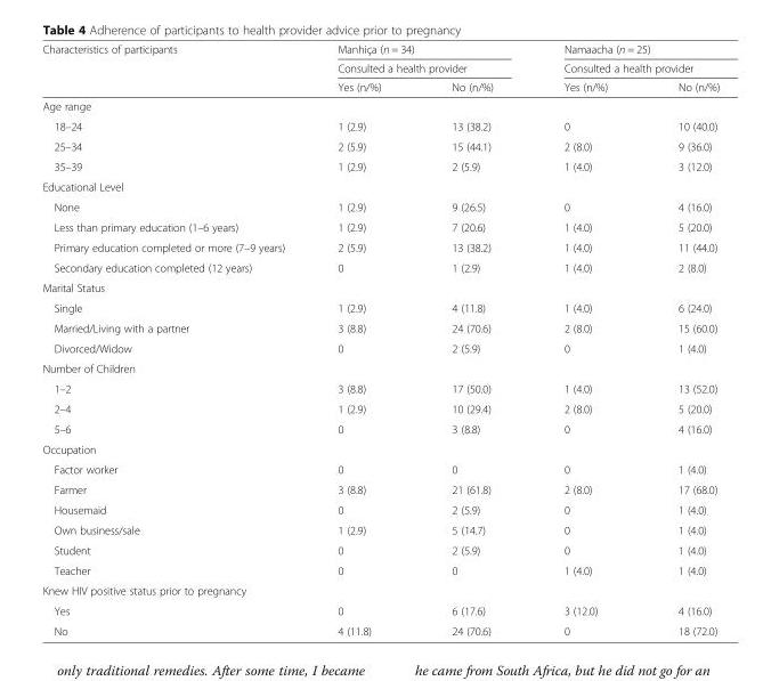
<table><thead><tr><td rowspan="3">Characteristics of participants</td><td rowspan="2" colspan="2">Manhiça (n = 34) Consulted a health provider</td><td rowspan="2" colspan="2">Namaacha (n = 25) Consulted a health provider</td></tr><tr></tr><tr><td>Yes (n/%)</td><td>No (n/%)</td><td>Yes (n/%)</td><td>No (n/%)</td></tr></thead><tbody><tr><td colspan="5">Age range</td></tr><tr><td>18–24</td><td>1 (2.9)</td><td>13 (38.2)</td><td>0</td><td>10 (40.0)</td></tr><tr><td>25–34</td><td>2 (5.9)</td><td>15 (44.1)</td><td>2 (8.0)</td><td>9 (36.0)</td></tr><tr><td>35–39</td><td>1 (2.9)</td><td>2 (5.9)</td><td>1 (4.0)</td><td>3 (12.0)</td></tr><tr><td colspan="5">Educational Level</td></tr><tr><td>None</td><td>1 (2.9)</td><td>9 (26.5)</td><td>0</td><td>4 (16.0)</td></tr><tr><td>Less than primary education (1–6 years)</td><td>1 (2.9)</td><td>7 (20.6)</td><td>1 (4.0)</td><td>5 (20.0)</td></tr><tr><td>Primary education completed or more (7–9 years)</td><td>2 (5.9)</td><td>13 (38.2)</td><td>1 (4.0)</td><td>11 (44.0)</td></tr><tr><td>Secondary education completed (12 years)</td><td>0</td><td>1 (2.9)</td><td>1 (4.0)</td><td>2 (8.0)</td></tr><tr><td colspan="5">Marital Status</td></tr><tr><td>Single</td><td>1 (2.9)</td><td>4 (11.8)</td><td>1 (4.0)</td><td>6 (24.0)</td></tr><tr><td>Married/Living with a partner</td><td>3 (8.8)</td><td>24 (70.6)</td><td>2 (8.0)</td><td>15 (60.0)</td></tr><tr><td>Divorced/Widow</td><td>0</td><td>2 (5.9)</td><td>0</td><td>1 (4.0)</td></tr><tr><td colspan="5">Number of Children</td></tr><tr><td>1–2</td><td>3 (8.8)</td><td>17 (50.0)</td><td>1 (4.0)</td><td>13 (52.0)</td></tr><tr><td>2–4</td><td>1 (2.9)</td><td>10 (29.4)</td><td>2 (8.0)</td><td>5 (20.0)</td></tr><tr><td>5–6</td><td>0</td><td>3 (8.8)</td><td>0</td><td>4 (16.0)</td></tr><tr><td colspan="5">Occupation</td></tr><tr><td>Factor worker</td><td>0</td><td>0</td><td>0</td><td>1 (4.0)</td></tr><tr><td>Farmer</td><td>3 (8.8)</td><td>21 (61.8)</td><td>2 (8.0)</td><td>17 (68.0)</td></tr><tr><td>Housemaid</td><td>0</td><td>2 (5.9)</td><td>0</td><td>1 (4.0)</td></tr><tr><td>Own business/sale</td><td>1 (2.9)</td><td>5 (14.7)</td><td>0</td><td>1 (4.0)</td></tr><tr><td>Student</td><td>0</td><td>2 (5.9)</td><td>0</td><td>1 (4.0)</td></tr><tr><td>Teacher</td><td>0</td><td>0</td><td>1 (4.0)</td><td>1 (4.0)</td></tr><tr><td colspan="5">Knew HIV positive status prior to pregnancy</td></tr><tr><td>Yes</td><td>0</td><td>6 (17.6)</td><td>3 (12.0)</td><td>4 (16.0)</td></tr><tr><td>No</td><td>4 (11.8)</td><td>24 (70.6)</td><td>0</td><td>18 (72.0)</td></tr></tbody></table>